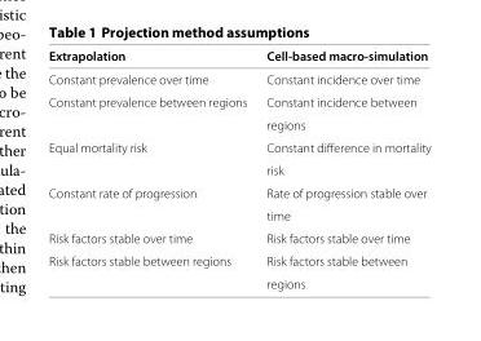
<table><thead><tr><td>Extrapolation</td><td>Cell-based macro-simulation</td></tr></thead><tbody><tr><td>Constant prevalence over time</td><td>Constant incidence over time</td></tr><tr><td rowspan="2">Constant prevalence between regions</td><td>Constant incidence between</td></tr><tr><td>regions</td></tr><tr><td rowspan="2">Equal mortality risk</td><td>Constant difference in mortality</td></tr><tr><td>risk</td></tr><tr><td rowspan="2">Constant rate of progression</td><td>Rate of progression stable over</td></tr><tr><td>time</td></tr><tr><td>Risk factors stable over time</td><td>Risk factors stable over time</td></tr><tr><td rowspan="2">Risk factors stable between regions</td><td>Risk factors stable between</td></tr><tr><td>regions</td></tr></tbody></table>